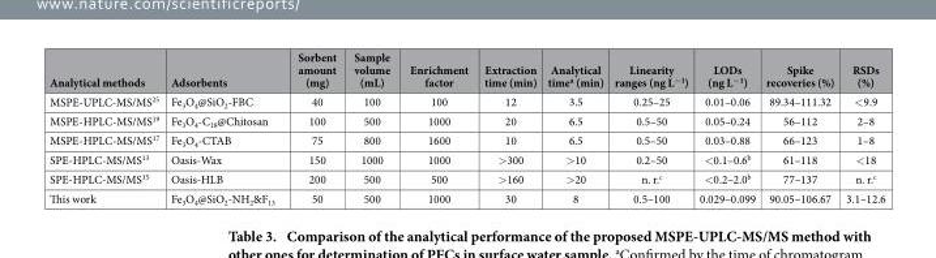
<table><thead><tr><td>Analytical methods</td><td>Adsorbents</td><td>Sorbent amount (mg)</td><td>Sample volume (mL)</td><td>Enrichment factor</td><td>Extraction time (min)</td><td>Analytical time<sup>a</sup> (min)</td><td>Linearity ranges (ng L<sup>−1</sup>)</td><td>LODs (ng L<sup>−1</sup>)</td><td>Spike recoveries (%)</td><td>RSDs (%)</td></tr></thead><tbody><tr><td>MSPE-UPLC-MS/MS<sup>25</sup></td><td>Fe<sub>3</sub>O<sub>4</sub>@SiO<sub>2</sub>-FBC</td><td>40</td><td>100</td><td>100</td><td>12</td><td>3.5</td><td>0.25–25</td><td>0.01–0.06</td><td>89.34–111.32</td><td>&lt; 9.9</td></tr><tr><td>MSPE-HPLC-MS/MS<sup>19</sup></td><td>Fe<sub>3</sub>O<sub>4</sub>-C<sub>18</sub>@Chitosan</td><td>100</td><td>500</td><td>1000</td><td>20</td><td>6.5</td><td>0.5–50</td><td>0.05–0.24</td><td>56–112</td><td>2–8</td></tr><tr><td>MSPE-HPLC-MS/MS<sup>17</sup></td><td>Fe<sub>3</sub>O<sub>4</sub>-CTAB</td><td>75</td><td>800</td><td>1600</td><td>10</td><td>6.5</td><td>0.5–50</td><td>0.03–0.88</td><td>66–123</td><td>1–8</td></tr><tr><td>SPE-HPLC-MS/MS<sup>13</sup></td><td>Oasis-Wax</td><td>150</td><td>1000</td><td>1000</td><td>&gt; 300</td><td>&gt; 10</td><td>0.2–50</td><td>&lt; 0.1–0.6<sup>b</sup></td><td>61–118</td><td>&lt; 18</td></tr><tr><td>SPE-HPLC-MS/MS<sup>15</sup></td><td>Oasis-HLB</td><td>200</td><td>500</td><td>500</td><td>&gt; 160</td><td>&gt; 20</td><td>n. r.<sup>c</sup></td><td>&lt; 0.2–2.0<sup>b</sup></td><td>77–137</td><td>n. r.<sup>c</sup></td></tr><tr><td>This work</td><td>Fe<sub>3</sub>O<sub>4</sub>@SiO<sub>2</sub>-NH<sub>2</sub>&amp;F<sub>13</sub></td><td>50</td><td>500</td><td>1000</td><td>30</td><td>8</td><td>0.5–100</td><td>0.029–0.099</td><td>90.05–106.67</td><td>3.1–12.6</td></tr></tbody></table>